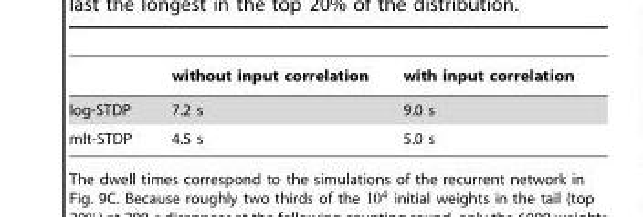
<table><thead><tr><td></td><td>without input correlation</td><td>with input correlation</td></tr></thead><tbody><tr><td>log-STDP</td><td>7.2 s</td><td>9.0 s</td></tr><tr><td>mlt-STDP</td><td>4.5 s</td><td>5.0 s</td></tr></tbody></table>